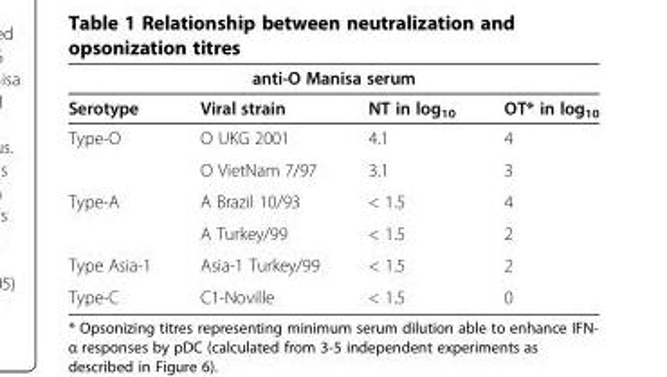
<table><thead><tr><td colspan="4">anti-O Manisa serum</td></tr><tr><td>Serotype</td><td>Viral strain</td><td>NT in log<sub>10</sub></td><td>OT* in log<sub>10</sub></td></tr></thead><tbody><tr><td rowspan="2">Type-O</td><td>O UKG 2001</td><td>4.1</td><td>4</td></tr><tr><td>O VietNam 7/97</td><td>3.1</td><td>3</td></tr><tr><td rowspan="2">Type-A</td><td>A Brazil 10/93</td><td>&lt; 1.5</td><td>4</td></tr><tr><td>A Turkey/99</td><td>&lt; 1.5</td><td>2</td></tr><tr><td>Type Asia-1</td><td>Asia-1 Turkey/99</td><td>&lt; 1.5</td><td>2</td></tr><tr><td>Type-C</td><td>C1-Noville</td><td>&lt; 1.5</td><td>0</td></tr></tbody></table>